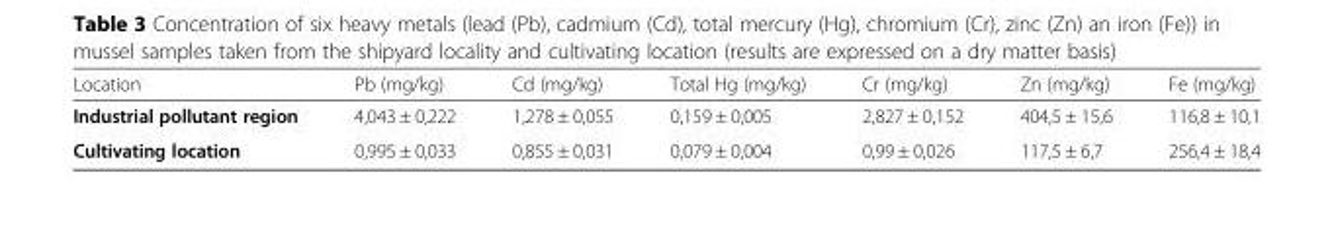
<table><thead><tr><td>Location</td><td>Pb (mg/kg)</td><td>Cd (mg/kg)</td><td>Total Hg (mg/kg)</td><td>Cr (mg/kg)</td><td>Zn (mg/kg)</td><td>Fe (mg/kg)</td></tr></thead><tbody><tr><td>Industrial pollutant region</td><td>4,043 ± 0,222</td><td>1,278 ± 0,055</td><td>0,159 ± 0,005</td><td>2,827 ± 0,152</td><td>404,5 ± 15,6</td><td>116,8 ± 10,1</td></tr><tr><td>Cultivating location</td><td>0,995 ± 0,033</td><td>0,855 ± 0,031</td><td>0,079 ± 0,004</td><td>0,99 ± 0,026</td><td>117,5 ± 6,7</td><td>256,4 ± 18,4</td></tr></tbody></table>